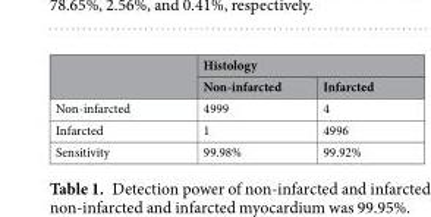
<table><thead><tr><td rowspan="2"></td><td colspan="2">Histology</td></tr><tr><td>Non-infarcted</td><td>Infarcted</td></tr></thead><tbody><tr><td>Non-infarcted</td><td>4999</td><td>4</td></tr><tr><td>Infarcted</td><td>1</td><td>4996</td></tr><tr><td>Sensitivity</td><td>99.98%</td><td>99.92%</td></tr></tbody></table>